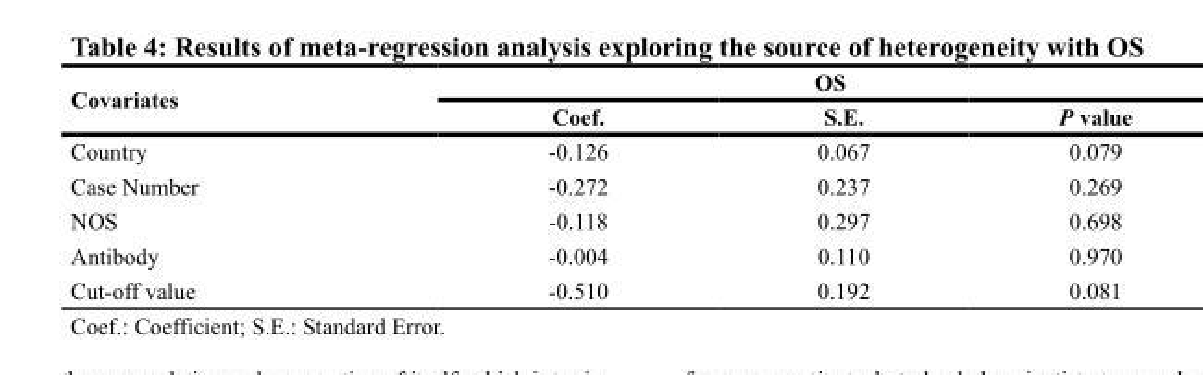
<table><thead><tr><td rowspan="2">Covariates</td><td colspan="3">OS</td></tr><tr><td>Coef.</td><td>S.E.</td><td>P value</td></tr></thead><tbody><tr><td>Country</td><td>-0.126</td><td>0.067</td><td>0.079</td></tr><tr><td>Case Number</td><td>-0.272</td><td>0.237</td><td>0.269</td></tr><tr><td>NOS</td><td>-0.118</td><td>0.297</td><td>0.698</td></tr><tr><td>Antibody</td><td>-0.004</td><td>0.110</td><td>0.970</td></tr><tr><td>Cut-off value</td><td>-0.510</td><td>0.192</td><td>0.081</td></tr></tbody></table>